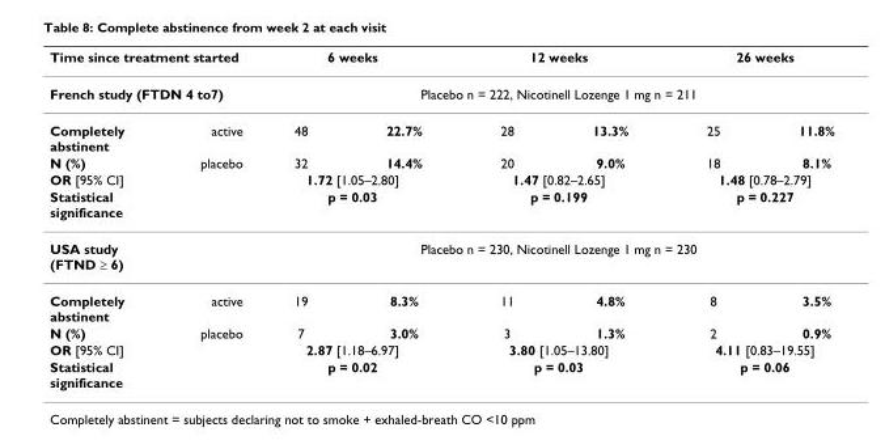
<table><thead><tr><td rowspan="2" colspan="2">Time since treatment started French study (FTDN 4 to7)</td><td colspan="2">6 weeks</td><td colspan="2">12 weeks</td><td colspan="2">26 weeks</td></tr><tr><td colspan="6">Placebo n = 222, Nicotinell Lozenge 1 mg n = 211</td></tr><tr><td>Completely abstinent</td><td>active</td><td>48</td><td>22.7%</td><td>28</td><td>13.3%</td><td>25</td><td>11.8%</td></tr></thead><tbody><tr><td>N (%)</td><td>placebo</td><td>32</td><td>14.4%</td><td>20</td><td>9.0%</td><td>18</td><td>8.1%</td></tr><tr><td>OR [95% CI]</td><td></td><td colspan="2">1.72 [1.05–2.80]</td><td colspan="2">1.47 [0.82–2.65]</td><td colspan="2">1.48 [0.78–2.79]</td></tr><tr><td>Statistical significance</td><td></td><td colspan="2">p = 0.03</td><td colspan="2">p = 0.199</td><td colspan="2">p = 0.227</td></tr><tr><td>USA study (FTND ≥ 6)</td><td></td><td colspan="6">Placebo n = 230, Nicotinell Lozenge 1 mg n = 230</td></tr><tr><td>Completely abstinent</td><td>active</td><td>19</td><td>8.3%</td><td>11</td><td>4.8%</td><td>8</td><td>3.5%</td></tr><tr><td>N (%)</td><td>placebo</td><td>7</td><td>3.0%</td><td>3</td><td>1.3%</td><td>2</td><td>0.9%</td></tr><tr><td>OR [95% CI]</td><td></td><td colspan="2">2.87 [1.18–6.97]</td><td colspan="2">3.80 [1.05–13.80]</td><td colspan="2">4.11 [0.83–19.55]</td></tr><tr><td>Statistical significance</td><td></td><td colspan="2">p = 0.02</td><td colspan="2">p = 0.03</td><td colspan="2">p = 0.06</td></tr></tbody></table>